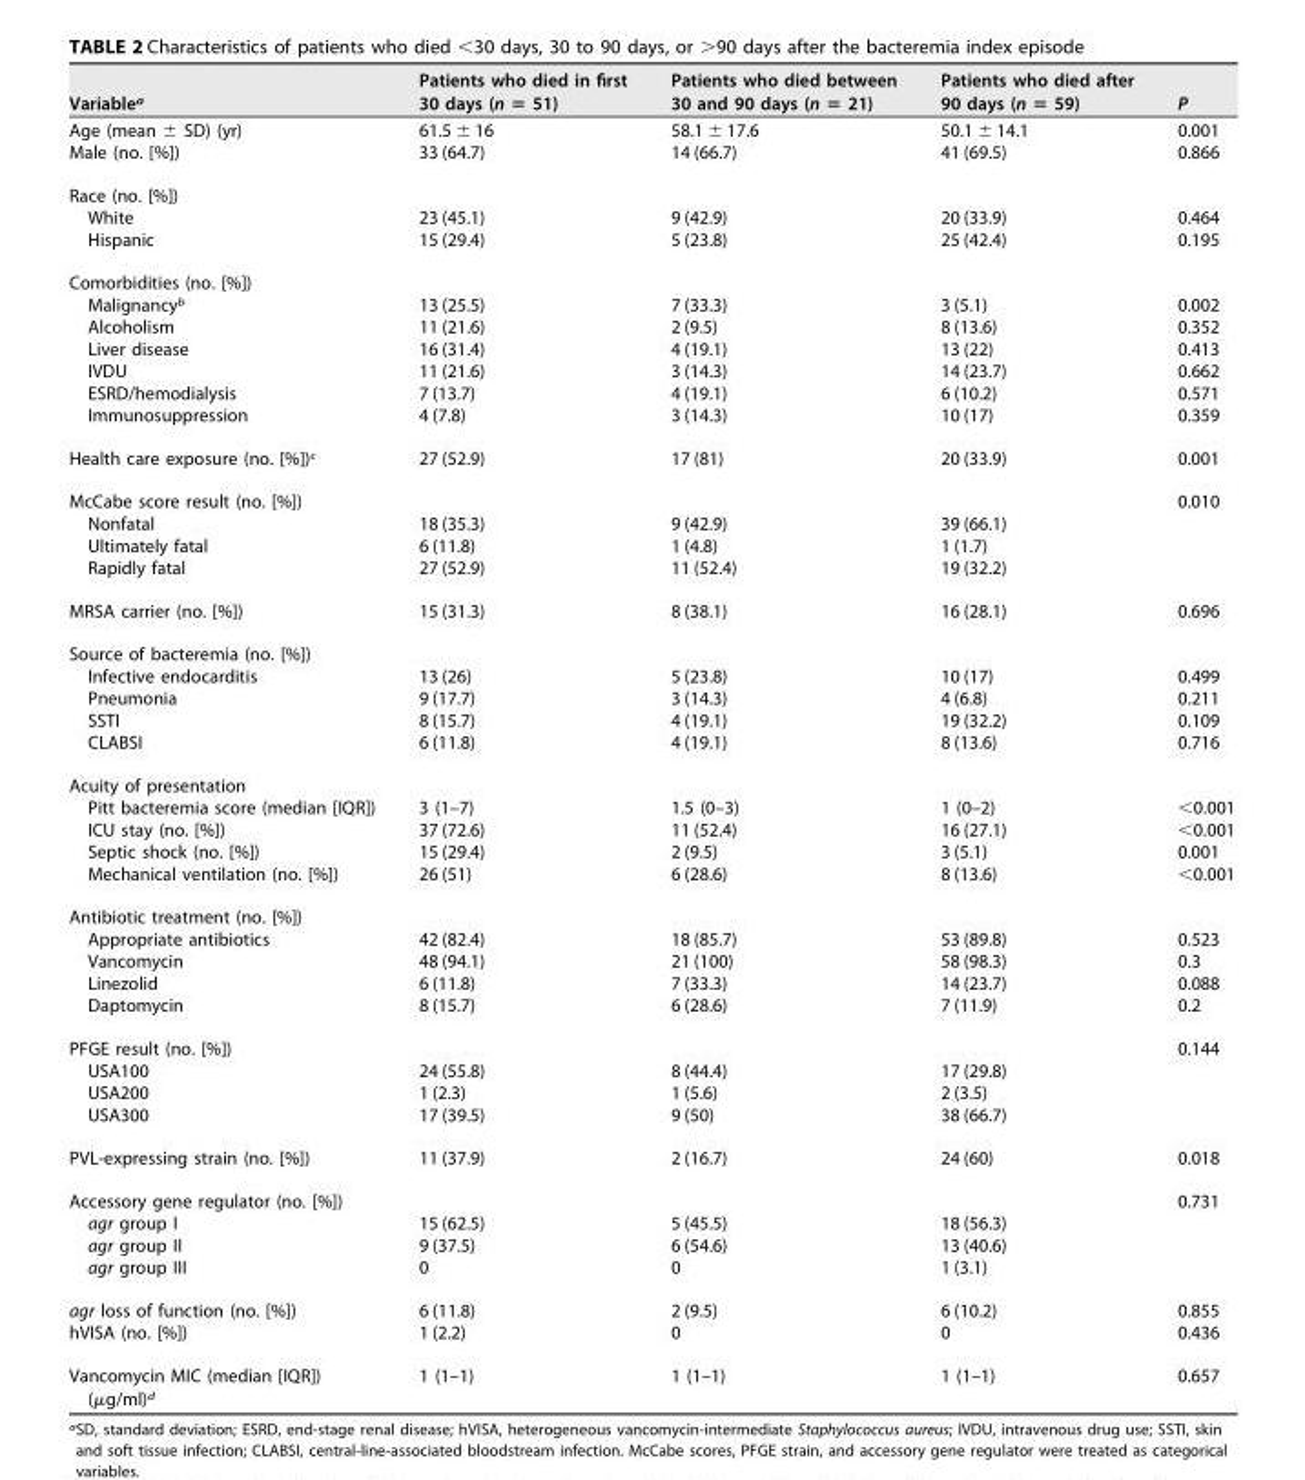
<table><thead><tr><td>Variable<sup>a</sup></td><td>Patients who died in first 30 days (n = 51)</td><td>Patients who died between 30 and 90 days (n = 21)</td><td>Patients who died after 90 days (n = 59)</td><td>P</td></tr></thead><tbody><tr><td>Age (mean ± SD) (yr)</td><td>61.5 ± 16</td><td>58.1 ± 17.6</td><td>50.1 ± 14.1</td><td>0.001</td></tr><tr><td>Male (no. [%])</td><td>33 (64.7)</td><td>14 (66.7)</td><td>41 (69.5)</td><td>0.866</td></tr><tr><td colspan="5">Race (no. [%])</td></tr><tr><td>White</td><td>23 (45.1)</td><td>9 (42.9)</td><td>20 (33.9)</td><td>0.464</td></tr><tr><td>Hispanic</td><td>15 (29.4)</td><td>5 (23.8)</td><td>25 (42.4)</td><td>0.195</td></tr><tr><td colspan="5">Comorbidities (no. [%])</td></tr><tr><td>Malignancy<sup>b</sup></td><td>13 (25.5)</td><td>7 (33.3)</td><td>3 (5.1)</td><td>0.002</td></tr><tr><td>Alcoholism</td><td>11 (21.6)</td><td>2 (9.5)</td><td>8 (13.6)</td><td>0.352</td></tr><tr><td>Liver disease</td><td>16 (31.4)</td><td>4 (19.1)</td><td>13 (22)</td><td>0.413</td></tr><tr><td>IVDU</td><td>11 (21.6)</td><td>3 (14.3)</td><td>14 (23.7)</td><td>0.662</td></tr><tr><td>ESRD/hemodialysis</td><td>7 (13.7)</td><td>4 (19.1)</td><td>6 (10.2)</td><td>0.571</td></tr><tr><td>Immunosuppression</td><td>4 (7.8)</td><td>3 (14.3)</td><td>10 (17)</td><td>0.359</td></tr><tr><td>Health care exposure (no. [%])<sup>c</sup></td><td>27 (52.9)</td><td>17 (81)</td><td>20 (33.9)</td><td>0.001</td></tr><tr><td>McCabe score result (no. [%])</td><td></td><td></td><td></td><td>0.010</td></tr><tr><td>Nonfatal</td><td>18 (35.3)</td><td>9 (42.9)</td><td>39 (66.1)</td><td></td></tr><tr><td>Ultimately fatal</td><td>6 (11.8)</td><td>1 (4.8)</td><td>1 (1.7)</td><td></td></tr><tr><td>Rapidly fatal</td><td>27 (52.9)</td><td>11 (52.4)</td><td>19 (32.2)</td><td></td></tr><tr><td>MRSA carrier (no. [%])</td><td>15 (31.3)</td><td>8 (38.1)</td><td>16 (28.1)</td><td>0.696</td></tr><tr><td colspan="5">Source of bacteremia (no. [%])</td></tr><tr><td>Infective endocarditis</td><td>13 (26)</td><td>5 (23.8)</td><td>10 (17)</td><td>0.499</td></tr><tr><td>Pneumonia</td><td>9 (17.7)</td><td>3 (14.3)</td><td>4 (6.8)</td><td>0.211</td></tr><tr><td>SSTI</td><td>8 (15.7)</td><td>4 (19.1)</td><td>19 (32.2)</td><td>0.109</td></tr><tr><td>CLABSI</td><td>6 (11.8)</td><td>4 (19.1)</td><td>8 (13.6)</td><td>0.716</td></tr><tr><td colspan="5">Acuity of presentation</td></tr><tr><td>Pitt bacteremia score (median [IQR])</td><td>3 (1–7)</td><td>1.5 (0–3)</td><td>1 (0–2)</td><td>&lt;0.001</td></tr><tr><td>ICU stay (no. [%])</td><td>37 (72.6)</td><td>11 (52.4)</td><td>16 (27.1)</td><td>&lt;0.001</td></tr><tr><td>Septic shock (no. [%])</td><td>15 (29.4)</td><td>2 (9.5)</td><td>3 (5.1)</td><td>0.001</td></tr><tr><td>Mechanical ventilation (no. [%])</td><td>26 (51)</td><td>6 (28.6)</td><td>8 (13.6)</td><td>&lt;0.001</td></tr><tr><td colspan="5">Antibiotic treatment (no. [%])</td></tr><tr><td>Appropriate antibiotics</td><td>42 (82.4)</td><td>18 (85.7)</td><td>53 (89.8)</td><td>0.523</td></tr><tr><td>Vancomycin</td><td>48 (94.1)</td><td>21 (100)</td><td>58 (98.3)</td><td>0.3</td></tr><tr><td>Linezolid</td><td>6 (11.8)</td><td>7 (33.3)</td><td>14 (23.7)</td><td>0.088</td></tr><tr><td>Daptomycin</td><td>8 (15.7)</td><td>6 (28.6)</td><td>7 (11.9)</td><td>0.2</td></tr><tr><td>PFGE result (no. [%])</td><td></td><td></td><td></td><td>0.144</td></tr><tr><td>USA100</td><td>24 (55.8)</td><td>8 (44.4)</td><td>17 (29.8)</td><td></td></tr><tr><td>USA200</td><td>1 (2.3)</td><td>1 (5.6)</td><td>2 (3.5)</td><td></td></tr><tr><td>USA300</td><td>17 (39.5)</td><td>9 (50)</td><td>38 (66.7)</td><td></td></tr><tr><td>PVL-expressing strain (no. [%])</td><td>11 (37.9)</td><td>2 (16.7)</td><td>24 (60)</td><td>0.018</td></tr><tr><td>Accessory gene regulator (no. [%])</td><td></td><td></td><td></td><td>0.731</td></tr><tr><td>agr group I</td><td>15 (62.5)</td><td>5 (45.5)</td><td>18 (56.3)</td><td></td></tr><tr><td>agr group II</td><td>9 (37.5)</td><td>6 (54.6)</td><td>13 (40.6)</td><td></td></tr><tr><td>agr group III</td><td>0</td><td>0</td><td>1 (3.1)</td><td></td></tr><tr><td>agr loss of function (no. [%])</td><td>6 (11.8)</td><td>2 (9.5)</td><td>6 (10.2)</td><td>0.855</td></tr><tr><td>hVISA (no. [%])</td><td>1 (2.2)</td><td>0</td><td>0</td><td>0.436</td></tr><tr><td>Vancomycin MIC (median [IQR]) (μg/ml)<sup>d</sup></td><td>1 (1–1)</td><td>1 (1–1)</td><td>1 (1–1)</td><td>0.657</td></tr></tbody></table>